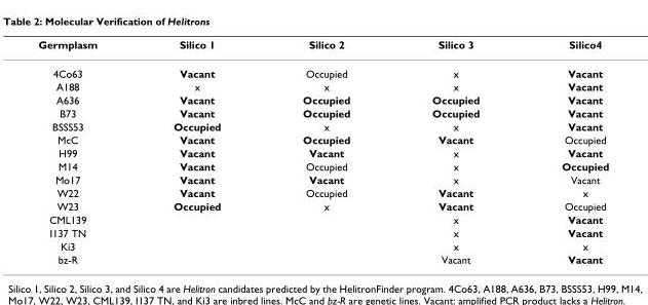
<table><thead><tr><td>Germplasm</td><td>Silico 1</td><td>Silico 2</td><td>Silico 3</td><td>Silico4</td></tr></thead><tbody><tr><td>4Co63</td><td>Vacant</td><td>Occupied</td><td>x</td><td>Vacant</td></tr><tr><td>A188</td><td>x</td><td>x</td><td>x</td><td>Vacant</td></tr><tr><td>A636</td><td>Vacant</td><td>Occupied</td><td>Occupied</td><td>Vacant</td></tr><tr><td>B73</td><td>Vacant</td><td>Occupied</td><td>Occupied</td><td>Vacant</td></tr><tr><td>BSSS53</td><td>Occupied</td><td>x</td><td>x</td><td>Vacant</td></tr><tr><td>McC</td><td>Vacant</td><td>Occupied</td><td>Vacant</td><td>Occupied</td></tr><tr><td>H99</td><td>Vacant</td><td>Vacant</td><td>x</td><td>Vacant</td></tr><tr><td>M14</td><td>Vacant</td><td>Occupied</td><td>x</td><td>Occupied</td></tr><tr><td>Mo17</td><td>Vacant</td><td>Vacant</td><td>x</td><td>Vacant</td></tr><tr><td>W22</td><td>Vacant</td><td>Occupied</td><td>Vacant</td><td>x</td></tr><tr><td>W23</td><td>Occupied</td><td>x</td><td>Vacant</td><td>Occupied</td></tr><tr><td>CML139</td><td></td><td></td><td>x</td><td>Vacant</td></tr><tr><td>I137 TN</td><td></td><td></td><td>x</td><td>Vacant</td></tr><tr><td>Ki3</td><td></td><td></td><td>x</td><td>x</td></tr><tr><td>bz-R</td><td></td><td></td><td>Vacant</td><td>Vacant</td></tr></tbody></table>